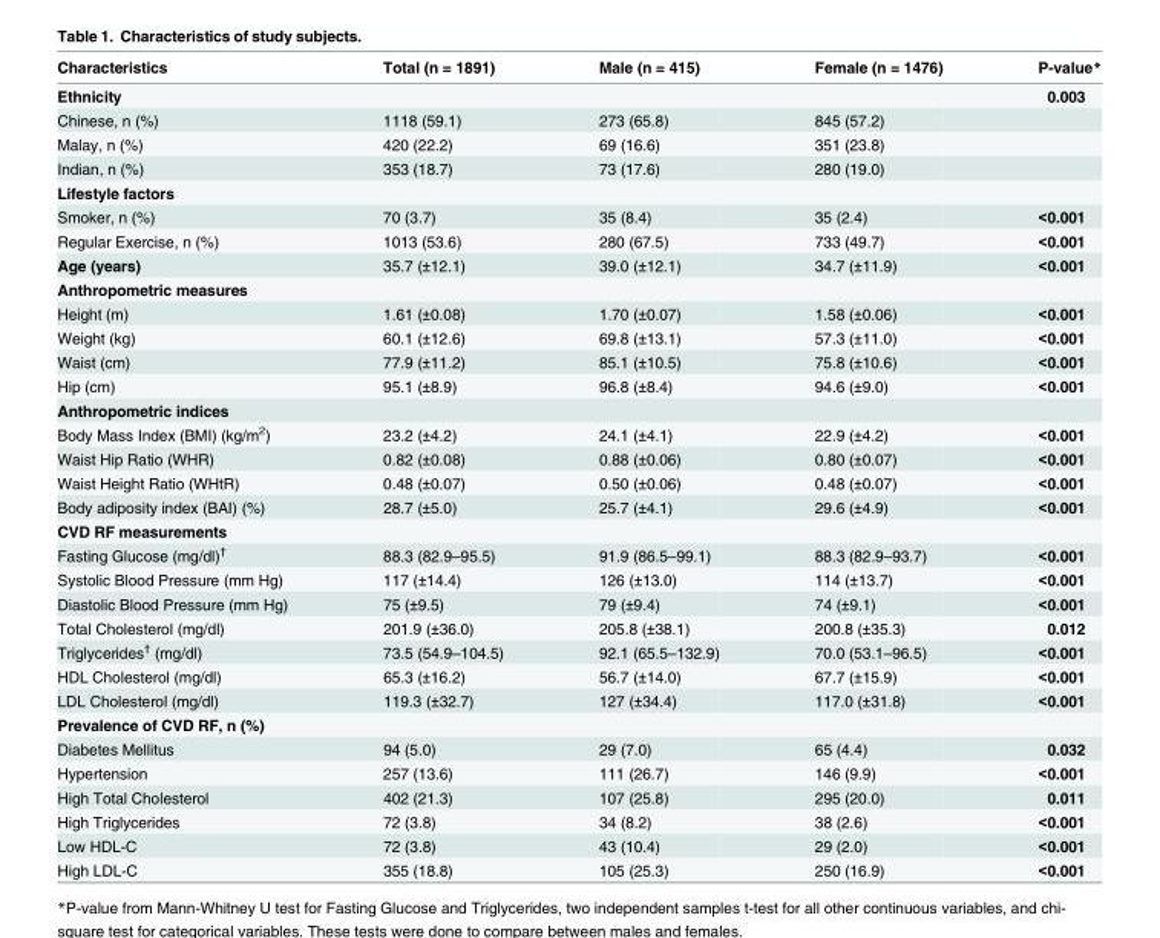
<table><thead><tr><td>Characteristics</td><td>Total (n = 1891)</td><td>Male (n = 415)</td><td>Female (n = 1476)</td><td>P-value*</td></tr></thead><tbody><tr><td colspan="4">Ethnicity</td><td>0.003</td></tr><tr><td>Chinese, n (%)</td><td>1118 (59.1)</td><td>273 (65.8)</td><td>845 (57.2)</td><td></td></tr><tr><td>Malay, n (%)</td><td>420 (22.2)</td><td>69 (16.6)</td><td>351 (23.8)</td><td></td></tr><tr><td>Indian, n (%)</td><td>353 (18.7)</td><td>73 (17.6)</td><td>280 (19.0)</td><td></td></tr><tr><td colspan="5">Lifestyle factors</td></tr><tr><td>Smoker, n (%)</td><td>70 (3.7)</td><td>35 (8.4)</td><td>35 (2.4)</td><td>&lt;0.001</td></tr><tr><td>Regular Exercise, n (%)</td><td>1013 (53.6)</td><td>280 (67.5)</td><td>733 (49.7)</td><td>&lt;0.001</td></tr><tr><td>Age (years)</td><td>35.7 (±12.1)</td><td>39.0 (±12.1)</td><td>34.7 (±11.9)</td><td>&lt;0.001</td></tr><tr><td colspan="5">Anthropometric measures</td></tr><tr><td>Height (m)</td><td>1.61 (±0.08)</td><td>1.70 (±0.07)</td><td>1.58 (±0.06)</td><td>&lt;0.001</td></tr><tr><td>Weight (kg)</td><td>60.1 (±12.6)</td><td>69.8 (±13.1)</td><td>57.3 (±11.0)</td><td>&lt;0.001</td></tr><tr><td>Waist (cm)</td><td>77.9 (±11.2)</td><td>85.1 (±10.5)</td><td>75.8 (±10.6)</td><td>&lt;0.001</td></tr><tr><td>Hip (cm)</td><td>95.1 (±8.9)</td><td>96.8 (±8.4)</td><td>94.6 (±9.0)</td><td>&lt;0.001</td></tr><tr><td colspan="5">Anthropometric indices</td></tr><tr><td>Body Mass Index (BMI) (kg/m<sup>2</sup>)</td><td>23.2 (±4.2)</td><td>24.1 (±4.1)</td><td>22.9 (±4.2)</td><td>&lt;0.001</td></tr><tr><td>Waist Hip Ratio (WHR)</td><td>0.82 (±0.08)</td><td>0.88 (±0.06)</td><td>0.80 (±0.07)</td><td>&lt;0.001</td></tr><tr><td>Waist Height Ratio (WHtR)</td><td>0.48 (±0.07)</td><td>0.50 (±0.06)</td><td>0.48 (±0.07)</td><td>&lt;0.001</td></tr><tr><td>Body adiposity index (BAI) (%)</td><td>28.7 (±5.0)</td><td>25.7 (±4.1)</td><td>29.6 (±4.9)</td><td>&lt;0.001</td></tr><tr><td colspan="5">CVD RF measurements</td></tr><tr><td>Fasting Glucose (mg/dl)<sup>†</sup></td><td>88.3 (82.9–95.5)</td><td>91.9 (86.5–99.1)</td><td>88.3 (82.9–93.7)</td><td>&lt;0.001</td></tr><tr><td>Systolic Blood Pressure (mm Hg)</td><td>117 (±14.4)</td><td>126 (±13.0)</td><td>114 (±13.7)</td><td>&lt;0.001</td></tr><tr><td>Diastolic Blood Pressure (mm Hg)</td><td>75 (±9.5)</td><td>79 (±9.4)</td><td>74 (±9.1)</td><td>&lt;0.001</td></tr><tr><td>Total Cholesterol (mg/dl)</td><td>201.9 (±36.0)</td><td>205.8 (±38.1)</td><td>200.8 (±35.3)</td><td>0.012</td></tr><tr><td>Triglycerides<sup>†</sup> (mg/dl)</td><td>73.5 (54.9–104.5)</td><td>92.1 (65.5–132.9)</td><td>70.0 (53.1–96.5)</td><td>&lt;0.001</td></tr><tr><td>HDL Cholesterol (mg/dl)</td><td>65.3 (±16.2)</td><td>56.7 (±14.0)</td><td>67.7 (±15.9)</td><td>&lt;0.001</td></tr><tr><td>LDL Cholesterol (mg/dl)</td><td>119.3 (±32.7)</td><td>127 (±34.4)</td><td>117.0 (±31.8)</td><td>&lt;0.001</td></tr><tr><td colspan="5">Prevalence of CVD RF, n (%)</td></tr><tr><td>Diabetes Mellitus</td><td>94 (5.0)</td><td>29 (7.0)</td><td>65 (4.4)</td><td>0.032</td></tr><tr><td>Hypertension</td><td>257 (13.6)</td><td>111 (26.7)</td><td>146 (9.9)</td><td>&lt;0.001</td></tr><tr><td>High Total Cholesterol</td><td>402 (21.3)</td><td>107 (25.8)</td><td>295 (20.0)</td><td>0.011</td></tr><tr><td>High Triglycerides</td><td>72 (3.8)</td><td>34 (8.2)</td><td>38 (2.6)</td><td>&lt;0.001</td></tr><tr><td>Low HDL-C</td><td>72 (3.8)</td><td>43 (10.4)</td><td>29 (2.0)</td><td>&lt;0.001</td></tr><tr><td>High LDL-C</td><td>355 (18.8)</td><td>105 (25.3)</td><td>250 (16.9)</td><td>&lt;0.001</td></tr></tbody></table>